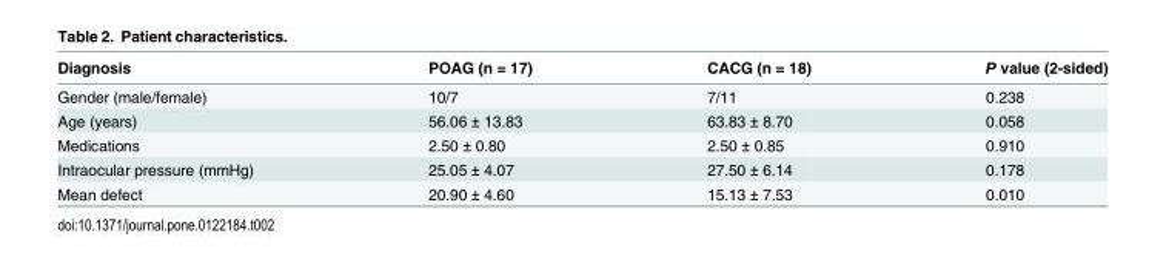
<table><thead><tr><td>Diagnosis</td><td>POAG (n = 17)</td><td>CACG (n = 18)</td><td>P value (2-sided)</td></tr></thead><tbody><tr><td>Gender (male/female)</td><td>10/7</td><td>7/11</td><td>0.238</td></tr><tr><td>Age (years)</td><td>56.06 ± 13.83</td><td>63.83 ± 8.70</td><td>0.058</td></tr><tr><td>Medications</td><td>2.50 ± 0.80</td><td>2.50 ± 0.85</td><td>0.910</td></tr><tr><td>Intraocular pressure (mmHg)</td><td>25.05 ± 4.07</td><td>27.50 ± 6.14</td><td>0.178</td></tr><tr><td>Mean defect</td><td>20.90 ± 4.60</td><td>15.13 ± 7.53</td><td>0.010</td></tr></tbody></table>